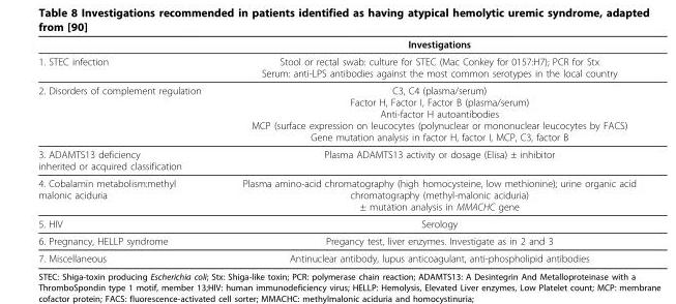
<table><thead><tr><td></td><td>Investigations</td></tr></thead><tbody><tr><td>1. STEC infection</td><td>Stool or rectal swab: culture for STEC (Mac Conkey for 0157:H7); PCR for Stx Serum: anti-LPS antibodies against the most common serotypes in the local country</td></tr><tr><td>2. Disorders of complement regulation</td><td>C3, C4 (plasma/serum) Factor H, Factor I, Factor B (plasma/serum) Anti-factor H autoantibodies MCP (surface expression on leucocytes (polynuclear or mononuclear leucocytes by FACS) Gene mutation analysis in factor H, factor I, MCP, C3, factor B</td></tr><tr><td>3. ADAMTS13 deficiency inherited or acquired classification</td><td>Plasma ADAMTS13 activity or dosage (Elisa) ± inhibitor</td></tr><tr><td>4. Cobalamin metabolism:methyl malonic aciduria</td><td>Plasma amino-acid chromatography (high homocysteine, low methionine); urine organic acid chromatography (methyl-malonic aciduria) ± mutation analysis in MMACHC gene</td></tr><tr><td>5. HIV</td><td>Serology</td></tr><tr><td>6. Pregnancy, HELLP syndrome</td><td>Pregancy test, liver enzymes. Investigate as in 2 and 3</td></tr><tr><td>7. Miscellaneous</td><td>Antinuclear antibody, lupus anticoagulant, anti-phospholipid antibodies</td></tr></tbody></table>